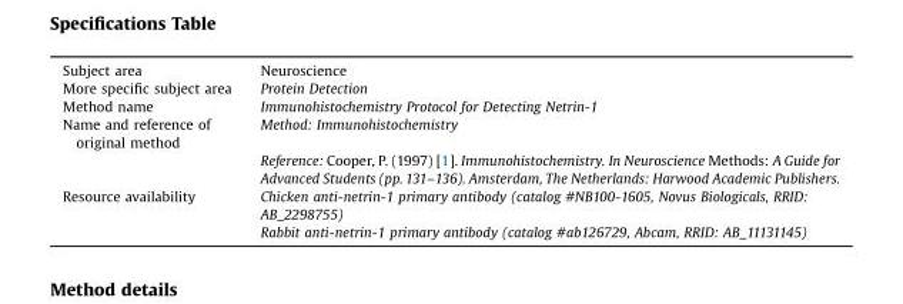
<table><tbody><tr><td>Subject area</td><td>Neuroscience</td></tr><tr><td>More specific subject area</td><td>Protein Detection</td></tr><tr><td>Method name</td><td>Immunohistochemistry Protocol for Detecting Netrin-1</td></tr><tr><td rowspan="2">Name and reference of original method</td><td>Method: Immunohistochemistry</td></tr><tr><td>Reference: Cooper, P. (1997) [1]. Immunohistochemistry. In Neuroscience Methods: A Guide for Advanced Students (pp. 131–136). Amsterdam, The Netherlands: Harwood Academic Publishers.</td></tr><tr><td rowspan="2">Resource availability</td><td>Chicken anti-netrin-1 primary antibody (catalog #NB100-1605, Novus Biologicals, RRID: AB_2298755)</td></tr><tr><td>Rabbit anti-netrin-1 primary antibody (catalog #ab126729, Abcam, RRID: AB_11131145)</td></tr></tbody></table>